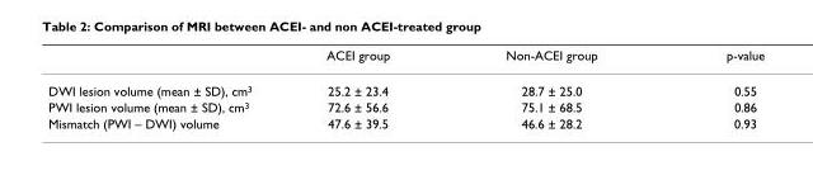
<table><thead><tr><td></td><td>ACEI group</td><td>Non-ACEI group</td><td>p-value</td></tr></thead><tbody><tr><td>DWI lesion volume (mean ± SD), cm<sup>3</sup></td><td>25.2 ± 23.4</td><td>28.7 ± 25.0</td><td>0.55</td></tr><tr><td>PWI lesion volume (mean ± SD), cm<sup>3</sup></td><td>72.6 ± 56.6</td><td>75.1 ± 68.5</td><td>0.86</td></tr><tr><td>Mismatch (PWI – DWI) volume</td><td>47.6 ± 39.5</td><td>46.6 ± 28.2</td><td>0.93</td></tr></tbody></table>